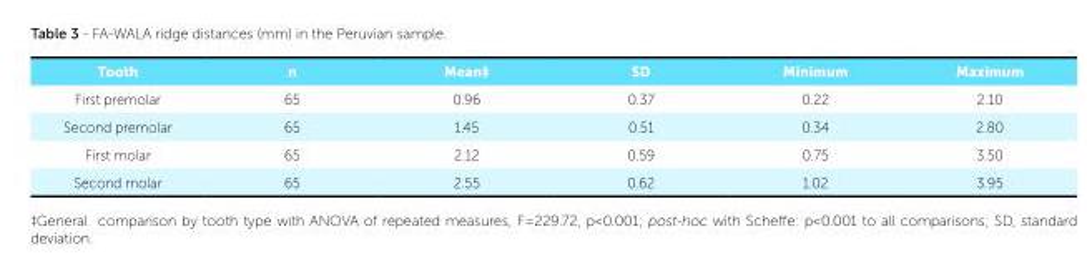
<table><tbody><tr><td>Tooth</td><td>n</td><td>Mean‡</td><td>SD</td><td>Minimum</td><td>Maximum</td></tr><tr><td>First premolar</td><td>65</td><td>0.96</td><td>0.37</td><td>0.22</td><td>2.10</td></tr><tr><td>Second premolar</td><td>65</td><td>1.45</td><td>0.51</td><td>0.34</td><td>2.80</td></tr><tr><td>First molar</td><td>65</td><td>2.12</td><td>0.59</td><td>0.75</td><td>3.50</td></tr><tr><td>Second molar</td><td>65</td><td>2.55</td><td>0.62</td><td>1.02</td><td>3.95</td></tr></tbody></table>